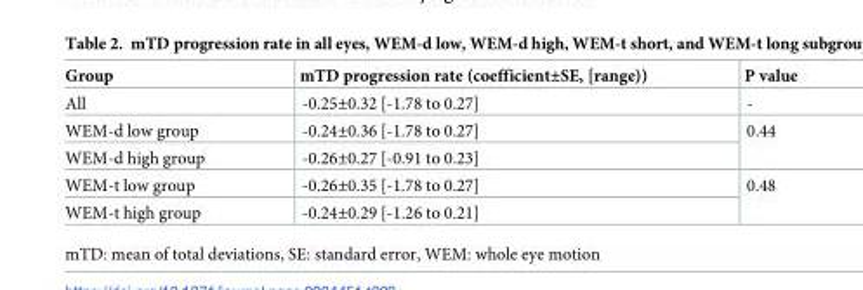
<table><thead><tr><td>Group</td><td>mTD progression rate (coefficient±SE, [range))</td><td>P value</td></tr></thead><tbody><tr><td>All</td><td>-0.25±0.32 [-1.78 to 0.27]</td><td>-</td></tr><tr><td>WEM-d low group</td><td>-0.24±0.36 [-1.78 to 0.27]</td><td rowspan="2">0.44</td></tr><tr><td>WEM-d high group</td><td>-0.26±0.27 [-0.91 to 0.23]</td></tr><tr><td>WEM-t low group</td><td>-0.26±0.35 [-1.78 to 0.27]</td><td rowspan="2">0.48</td></tr><tr><td>WEM-t high group</td><td>-0.24±0.29 [-1.26 to 0.21]</td></tr></tbody></table>